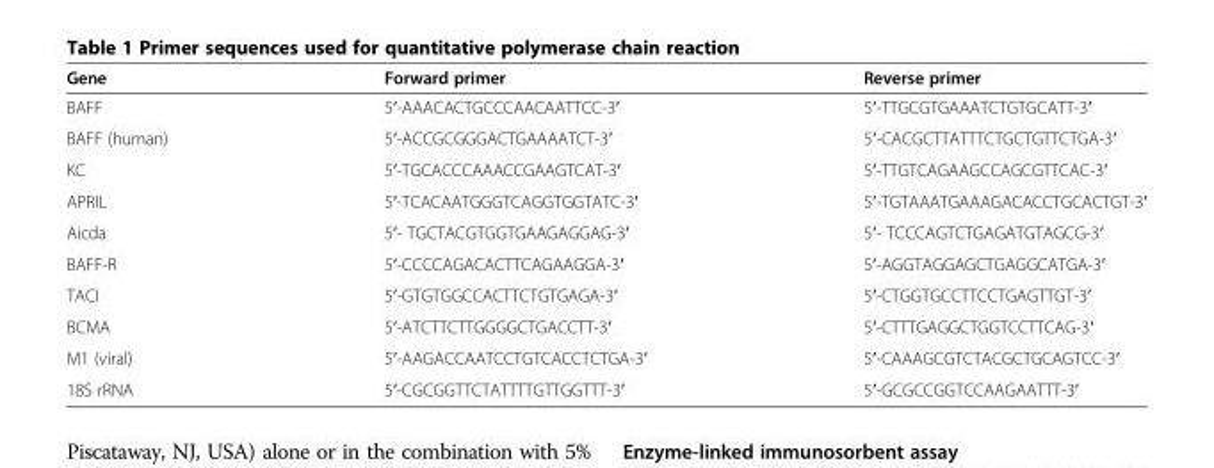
<table><thead><tr><td>Gene</td><td>Forward primer</td><td>Reverse primer</td></tr></thead><tbody><tr><td>BAFF</td><td>5′-AAACACTGCCCAACAATTCC-3′</td><td>5′-TTGCGTGAAATCTGTGCATT-3′</td></tr><tr><td>BAFF (human)</td><td>5′-ACCGCGGGACTGAAAATCT-3′</td><td>5′-CACGCTTATTTCTGCTGTTCTGA-3′</td></tr><tr><td>KC</td><td>5′-TGCACCCAAACCGAAGTCAT-3′</td><td>5′-TTGTCAGAAGCCAGCGTTCAC-3′</td></tr><tr><td>APRIL</td><td>5′-TCACAATGGGTCAGGTGGTATC-3′</td><td>5′-TGTAAATGAAAGACACCTGCACTGT-3′</td></tr><tr><td>Aicda</td><td>5′- TGCTACGTGGTGAAGAGGAG-3′</td><td>5′- TCCCAGTCTGAGATGTAGCG-3′</td></tr><tr><td>BAFF-R</td><td>5′-CCCCAGACACTTCAGAAGGA-3′</td><td>5′-AGGTAGGAGCTGAGGCATGA-3′</td></tr><tr><td>TACI</td><td>5′-GTGTGGCCACTTCTGTGAGA-3′</td><td>5′-CTGGTGCCTTCCTGAGTTGT-3′</td></tr><tr><td>BCMA</td><td>5′-ATCTTCTTGGGGCTGACCTT-3′</td><td>5′-CTTTGAGGCTGGTCCTTCAG-3′</td></tr><tr><td>M1 (viral)</td><td>5′-AAGACCAATCCTGTCACCTCTGA-3′</td><td>5′-CAAAGCGTCTACGCTGCAGTCC-3′</td></tr><tr><td>18S rRNA</td><td>5′-CGCGGTTCTATTTTGTTGGTTT-3′</td><td>5′-GCGCCGGTCCAAGAATTT-3′</td></tr></tbody></table>